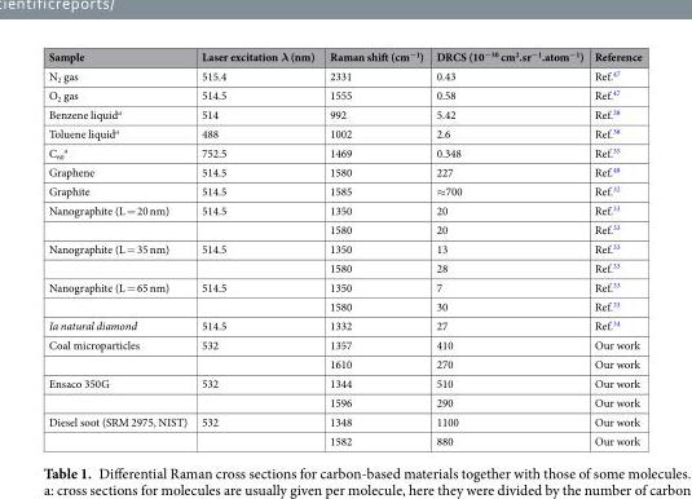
<table><thead><tr><td>Sample</td><td>Laser excitation λ (nm)</td><td>Raman shift (cm<sup>−1</sup>)</td><td>DRCS (10<sup>−30</sup> cm<sup>2</sup>.sr<sup>−1</sup>.atom<sup>−1</sup>)</td><td>Reference</td></tr></thead><tbody><tr><td>N<sub>2</sub> gas</td><td>515.4</td><td>2331</td><td>0.43</td><td>Ref.<sup>47</sup></td></tr><tr><td>O<sub>2</sub> gas</td><td>514.5</td><td>1555</td><td>0.58</td><td>Ref.<sup>47</sup></td></tr><tr><td>Benzene liquid<sup>a</sup></td><td>514</td><td>992</td><td>5.42</td><td>Ref.<sup>38</sup></td></tr><tr><td>Toluene liquid<sup>a</sup></td><td>488</td><td>1002</td><td>2.6</td><td>Ref.<sup>38</sup></td></tr><tr><td>C<sub>60</sub> <sup>a</sup></td><td>752.5</td><td>1469</td><td>0.348</td><td>Ref.<sup>35</sup></td></tr><tr><td>Graphene</td><td>514.5</td><td>1580</td><td>227</td><td>Ref.<sup>48</sup></td></tr><tr><td>Graphite</td><td>514.5</td><td>1585</td><td>≈700</td><td>Ref.<sup>32</sup></td></tr><tr><td rowspan="2">Nanographite (L = 20 nm)</td><td>514.5</td><td>1350</td><td>20</td><td>Ref.<sup>33</sup></td></tr><tr><td></td><td>1580</td><td>20</td><td>Ref.<sup>33</sup></td></tr><tr><td rowspan="2">Nanographite (L = 35 nm)</td><td>514.5</td><td>1350</td><td>13</td><td>Ref.<sup>33</sup></td></tr><tr><td></td><td>1580</td><td>28</td><td>Ref.<sup>33</sup></td></tr><tr><td rowspan="2">Nanographite (L = 65 nm)</td><td>514.5</td><td>1350</td><td>7</td><td>Ref.<sup>33</sup></td></tr><tr><td></td><td>1580</td><td>30</td><td>Ref.<sup>33</sup></td></tr><tr><td>Ia natural diamond</td><td>514.5</td><td>1332</td><td>27</td><td>Ref.<sup>34</sup></td></tr><tr><td rowspan="2">Coal microparticles</td><td>532</td><td>1357</td><td>410</td><td>Our work</td></tr><tr><td></td><td>1610</td><td>270</td><td>Our work</td></tr><tr><td rowspan="2">Ensaco 350G</td><td>532</td><td>1344</td><td>510</td><td>Our work</td></tr><tr><td></td><td>1596</td><td>290</td><td>Our work</td></tr><tr><td rowspan="2">Diesel soot (SRM 2975, NIST)</td><td>532</td><td>1348</td><td>1100</td><td>Our work</td></tr><tr><td></td><td>1582</td><td>880</td><td>Our work</td></tr></tbody></table>